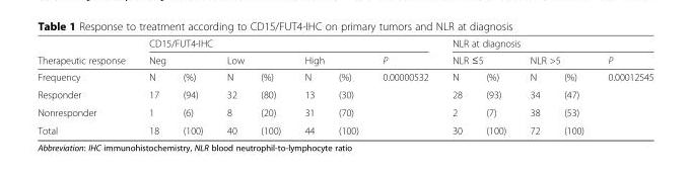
<table><thead><tr><td rowspan="3">Therapeutic response Frequency</td><td colspan="7">CD15/FUT4-IHC</td><td colspan="5">NLR at diagnosis</td></tr><tr><td colspan="2">Neg</td><td colspan="2">Low</td><td colspan="2">High</td><td rowspan="2">P 0.00000532</td><td colspan="2">NLR ≤5</td><td colspan="2">NLR &gt;5</td><td rowspan="2">P 0.00012545</td></tr><tr><td>N</td><td>(%)</td><td>N</td><td>(%)</td><td>N</td><td>(%)</td><td>N</td><td>(%)</td><td>N</td><td>(%)</td></tr></thead><tbody><tr><td>Responder</td><td>17</td><td>(94)</td><td>32</td><td>(80)</td><td>13</td><td>(30)</td><td></td><td>28</td><td>(93)</td><td>34</td><td>(47)</td><td></td></tr><tr><td>Nonresponder</td><td>1</td><td>(6)</td><td>8</td><td>(20)</td><td>31</td><td>(70)</td><td></td><td>2</td><td>(7)</td><td>38</td><td>(53)</td><td></td></tr><tr><td>Total</td><td>18</td><td>(100)</td><td>40</td><td>(100)</td><td>44</td><td>(100)</td><td></td><td>30</td><td>(100)</td><td>72</td><td>(100)</td><td></td></tr></tbody></table>